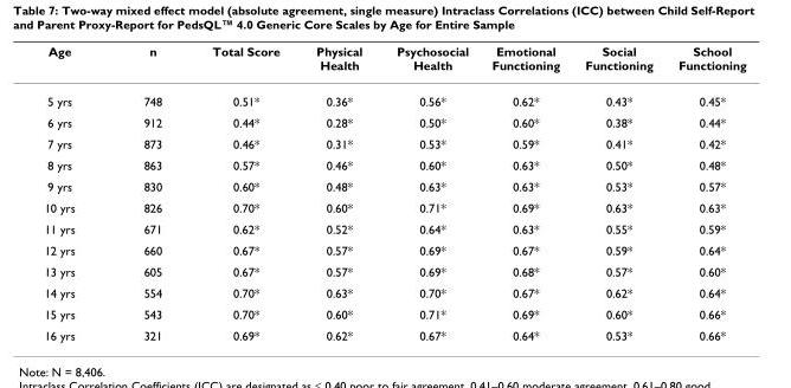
<table><thead><tr><td>Age</td><td>n</td><td>Total Score</td><td>Physical Health</td><td>Psychosocial Health</td><td>Emotional Functioning</td><td>Social Functioning</td><td>School Functioning</td></tr></thead><tbody><tr><td>5 yrs</td><td>748</td><td>0.51*</td><td>0.36*</td><td>0.56*</td><td>0.62*</td><td>0.43*</td><td>0.45*</td></tr><tr><td>6 yrs</td><td>912</td><td>0.44*</td><td>0.28*</td><td>0.50*</td><td>0.60*</td><td>0.38*</td><td>0.44*</td></tr><tr><td>7 yrs</td><td>873</td><td>0.46*</td><td>0.31*</td><td>0.53*</td><td>0.59*</td><td>0.41*</td><td>0.42*</td></tr><tr><td>8 yrs</td><td>863</td><td>0.57*</td><td>0.46*</td><td>0.60*</td><td>0.63*</td><td>0.50*</td><td>0.48*</td></tr><tr><td>9 yrs</td><td>830</td><td>0.60*</td><td>0.48*</td><td>0.63*</td><td>0.63*</td><td>0.53*</td><td>0.57*</td></tr><tr><td>10 yrs</td><td>826</td><td>0.70*</td><td>0.60*</td><td>0.71*</td><td>0.69*</td><td>0.63*</td><td>0.63*</td></tr><tr><td>11 yrs</td><td>671</td><td>0.62*</td><td>0.52*</td><td>0.64*</td><td>0.63*</td><td>0.55*</td><td>0.59*</td></tr><tr><td>12 yrs</td><td>660</td><td>0.67*</td><td>0.57*</td><td>0.69*</td><td>0.67*</td><td>0.59*</td><td>0.64*</td></tr><tr><td>13 yrs</td><td>605</td><td>0.67*</td><td>0.57*</td><td>0.69*</td><td>0.68*</td><td>0.57*</td><td>0.60*</td></tr><tr><td>14 yrs</td><td>554</td><td>0.70*</td><td>0.63*</td><td>0.70*</td><td>0.67*</td><td>0.62*</td><td>0.64*</td></tr><tr><td>15 yrs</td><td>543</td><td>0.70*</td><td>0.60*</td><td>0.71*</td><td>0.69*</td><td>0.60*</td><td>0.66*</td></tr><tr><td>16 yrs</td><td>321</td><td>0.69*</td><td>0.62*</td><td>0.67*</td><td>0.64*</td><td>0.53*</td><td>0.66*</td></tr></tbody></table>